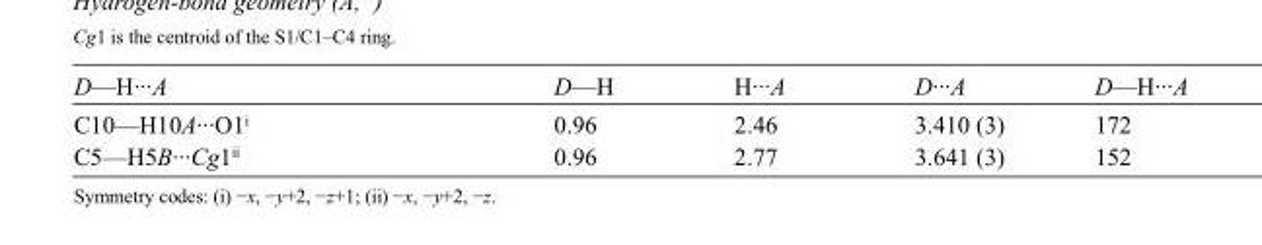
<table><tbody><tr><td>D—H···A</td><td>D—H</td><td>H···A</td><td>D···A</td><td>D—H···A</td></tr><tr><td>C10—H10A···O1<sup>i</sup></td><td>0.96</td><td>2.46</td><td>3.410 (3)</td><td>172</td></tr><tr><td>C5—H5B···Cg1<sup>ii</sup></td><td>0.96</td><td>2.77</td><td>3.641 (3)</td><td>152</td></tr></tbody></table>